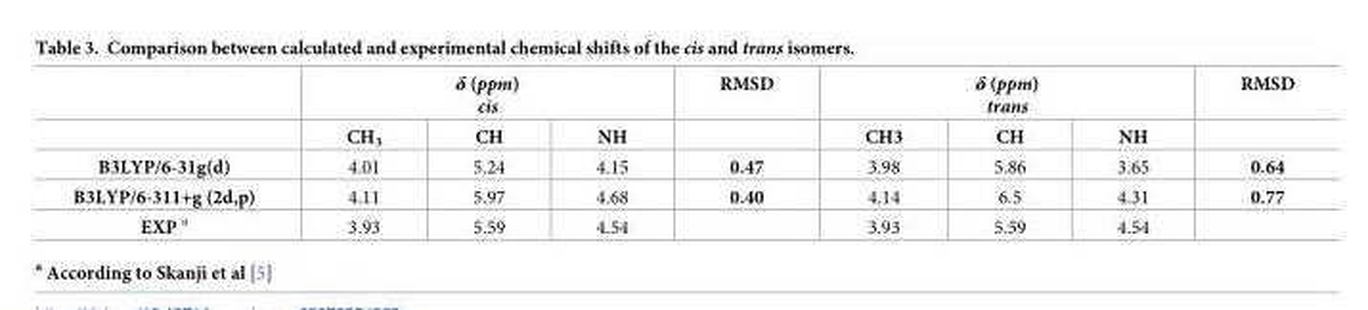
<table><thead><tr><td rowspan="2"></td><td colspan="3">δ (ppm) cis</td><td rowspan="2">RMSD</td><td colspan="3">δ (ppm) trans</td><td rowspan="2">RMSD</td></tr><tr><td>CH<sub>3</sub></td><td>CH</td><td>NH</td><td>CH3</td><td>CH</td><td>NH</td></tr></thead><tbody><tr><td>B3LYP/6-31g(d)</td><td>4.01</td><td>5.24</td><td>4.15</td><td>0.47</td><td>3.98</td><td>5.86</td><td>3.65</td><td>0.64</td></tr><tr><td>B3LYP/6-311+g (2d,p)</td><td>4.11</td><td>5.97</td><td>4.68</td><td>0.40</td><td>4.14</td><td>6.5</td><td>4.31</td><td>0.77</td></tr><tr><td>EXP <sup>a</sup></td><td>3.93</td><td>5.59</td><td>4.54</td><td></td><td>3.93</td><td>5.59</td><td>4.54</td><td></td></tr></tbody></table>